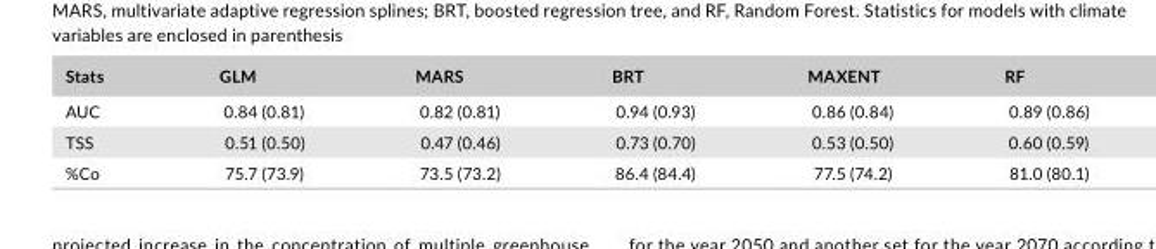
<table><thead><tr><td>Stats</td><td>GLM</td><td>MARS</td><td>BRT</td><td>MAXENT</td><td>RF</td></tr></thead><tbody><tr><td>AUC</td><td>0.84 (0.81)</td><td>0.82 (0.81)</td><td>0.94 (0.93)</td><td>0.86 (0.84)</td><td>0.89 (0.86)</td></tr><tr><td>TSS</td><td>0.51 (0.50)</td><td>0.47 (0.46)</td><td>0.73 (0.70)</td><td>0.53 (0.50)</td><td>0.60 (0.59)</td></tr><tr><td>%Co</td><td>75.7 (73.9)</td><td>73.5 (73.2)</td><td>86.4 (84.4)</td><td>77.5 (74.2)</td><td>81.0 (80.1)</td></tr></tbody></table>